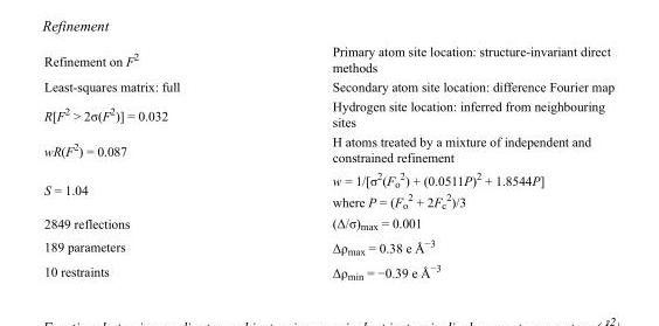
<table><tbody><tr><td>Refinement on F<sup>2</sup></td><td>Primary atom site location: structure-invariant direct methods</td></tr><tr><td>Least-squares matrix: full</td><td>Secondary atom site location: difference Fourier map</td></tr><tr><td>R[F<sup>2</sup> &gt; 2σ(F<sup>2</sup>)] = 0.032</td><td>Hydrogen site location: inferred from neighbouring sites</td></tr><tr><td>wR(F<sup>2</sup>) = 0.087</td><td>H atoms treated by a mixture of independent and constrained refinement</td></tr><tr><td>S = 1.04</td><td>w = 1/[σ<sup>2</sup>(F<sub>o</sub> <sup>2</sup>) + (0.0511P)<sup>2</sup> + 1.8544P] where P = (F<sub>o</sub> <sup>2</sup> + 2F<sub>c</sub> <sup>2</sup>)/3</td></tr><tr><td>2849 reflections</td><td>(Δ/σ)<sub>max</sub> = 0.001</td></tr><tr><td>189 parameters</td><td>Δρ<sub>max</sub> = 0.38 e Å<sup>−3</sup></td></tr><tr><td>10 restraints</td><td>Δρ<sub>min</sub> = −0.39 e Å<sup>−3</sup></td></tr></tbody></table>